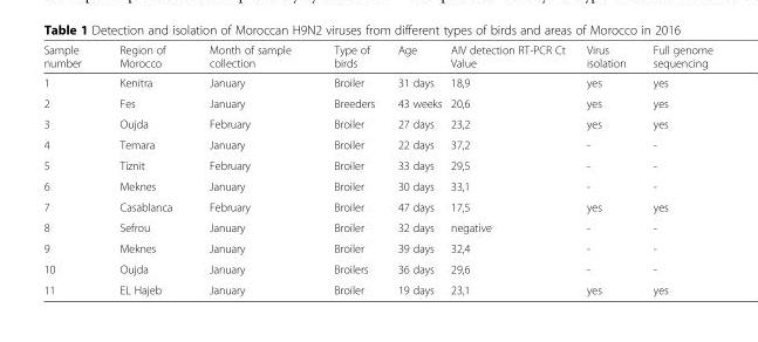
<table><thead><tr><td>Sample number</td><td>Region of Morocco</td><td>Month of sample collection</td><td>Type of birds</td><td>Age</td><td>AIV detection RT-PCR Ct Value</td><td>Virus isolation</td><td>Full genome sequencing</td></tr></thead><tbody><tr><td>1</td><td>Kenitra</td><td>January</td><td>Broiler</td><td>31 days</td><td>18,9</td><td>yes</td><td>yes</td></tr><tr><td>2</td><td>Fes</td><td>January</td><td>Breeders</td><td>43 weeks</td><td>20,6</td><td>yes</td><td>yes</td></tr><tr><td>3</td><td>Oujda</td><td>February</td><td>Broiler</td><td>27 days</td><td>23,2</td><td>yes</td><td>yes</td></tr><tr><td>4</td><td>Temara</td><td>January</td><td>Broiler</td><td>22 days</td><td>37,2</td><td>-</td><td>-</td></tr><tr><td>5</td><td>Tiznit</td><td>February</td><td>Broiler</td><td>33 days</td><td>29,5</td><td>-</td><td>-</td></tr><tr><td>6</td><td>Meknes</td><td>January</td><td>Broiler</td><td>30 days</td><td>33,1</td><td>-</td><td>-</td></tr><tr><td>7</td><td>Casablanca</td><td>February</td><td>Broiler</td><td>47 days</td><td>17,5</td><td>yes</td><td>yes</td></tr><tr><td>8</td><td>Sefrou</td><td>January</td><td>Broiler</td><td>32 days</td><td>negative</td><td>-</td><td>-</td></tr><tr><td>9</td><td>Meknes</td><td>January</td><td>Broiler</td><td>39 days</td><td>32,4</td><td>-</td><td>-</td></tr><tr><td>10</td><td>Oujda</td><td>January</td><td>Broilers</td><td>36 days</td><td>29,6</td><td>-</td><td>-</td></tr><tr><td>11</td><td>EL Hajeb</td><td>January</td><td>Broiler</td><td>19 days</td><td>23,1</td><td>yes</td><td>yes</td></tr></tbody></table>